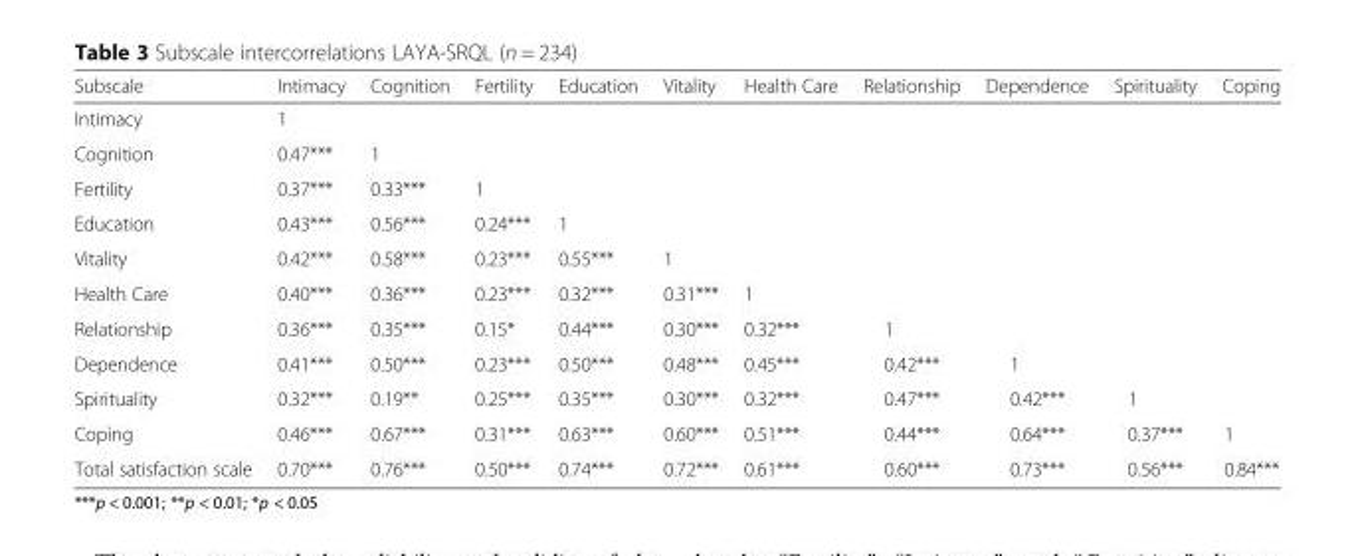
<table><thead><tr><td>Subscale</td><td>Intimacy</td><td>Cognition</td><td>Fertility</td><td>Education</td><td>Vitality</td><td>Health Care</td><td>Relationship</td><td>Dependence</td><td>Spirituality</td><td>Coping</td></tr></thead><tbody><tr><td>Intimacy</td><td>1</td><td></td><td></td><td></td><td></td><td></td><td></td><td></td><td></td><td></td></tr><tr><td>Cognition</td><td>0.47***</td><td>1</td><td></td><td></td><td></td><td></td><td></td><td></td><td></td><td></td></tr><tr><td>Fertility</td><td>0.37***</td><td>0.33***</td><td>1</td><td></td><td></td><td></td><td></td><td></td><td></td><td></td></tr><tr><td>Education</td><td>0.43***</td><td>0.56***</td><td>0.24***</td><td>1</td><td></td><td></td><td></td><td></td><td></td><td></td></tr><tr><td>Vitality</td><td>0.42***</td><td>0.58***</td><td>0.23***</td><td>0.55***</td><td>1</td><td></td><td></td><td></td><td></td><td></td></tr><tr><td>Health Care</td><td>0.40***</td><td>0.36***</td><td>0.23***</td><td>0.32***</td><td>0.31***</td><td>1</td><td></td><td></td><td></td><td></td></tr><tr><td>Relationship</td><td>0.36***</td><td>0.35***</td><td>0.15*</td><td>0.44***</td><td>0.30***</td><td>0.32***</td><td>1</td><td></td><td></td><td></td></tr><tr><td>Dependence</td><td>0.41***</td><td>0.50***</td><td>0.23***</td><td>0.50***</td><td>0.48***</td><td>0.45***</td><td>0.42***</td><td>1</td><td></td><td></td></tr><tr><td>Spirituality</td><td>0.32***</td><td>0.19**</td><td>0.25***</td><td>0.35***</td><td>0.30***</td><td>0.32***</td><td>0.47***</td><td>0.42***</td><td>1</td><td></td></tr><tr><td>Coping</td><td>0.46***</td><td>0.67***</td><td>0.31***</td><td>0.63***</td><td>0.60***</td><td>0.51***</td><td>0.44***</td><td>0.64***</td><td>0.37***</td><td>1</td></tr><tr><td>Total satisfaction scale</td><td>0.70***</td><td>0.76***</td><td>0.50***</td><td>0.74***</td><td>0.72***</td><td>0.61***</td><td>0.60***</td><td>0.73***</td><td>0.56***</td><td>0.84***</td></tr></tbody></table>